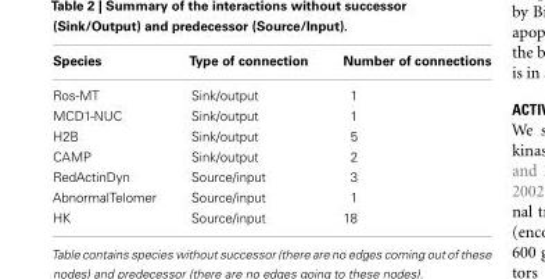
<table><thead><tr><td>Species</td><td>Type of connection</td><td>Number of connections</td></tr></thead><tbody><tr><td>Ros-MT</td><td>Sink/output</td><td>1</td></tr><tr><td>MCD1-NUC</td><td>Sink/output</td><td>1</td></tr><tr><td>H2B</td><td>Sink/output</td><td>5</td></tr><tr><td>CAMP</td><td>Sink/output</td><td>2</td></tr><tr><td>RedActinDyn</td><td>Source/input</td><td>3</td></tr><tr><td>AbnormalTelomer</td><td>Source/input</td><td>1</td></tr><tr><td>HK</td><td>Source/input</td><td>18</td></tr></tbody></table>